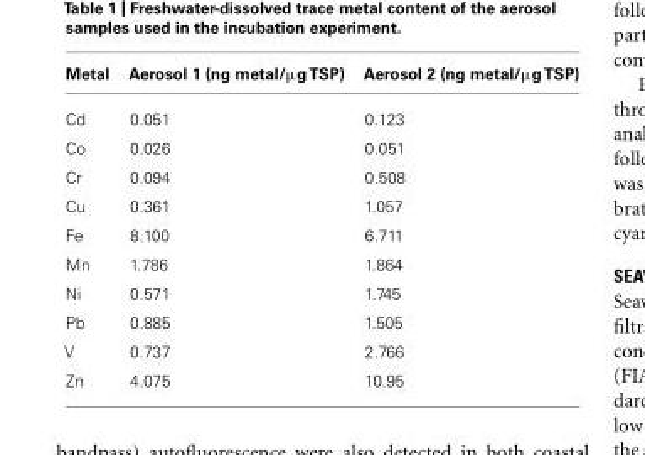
<table><thead><tr><td>Metal</td><td>Aerosol 1 (ng metal/μgTSP)</td><td>Aerosol 2 (ng metal/μgTSP)</td></tr></thead><tbody><tr><td>Cd</td><td>0.051</td><td>0.123</td></tr><tr><td>Co</td><td>0.026</td><td>0.051</td></tr><tr><td>Cr</td><td>0.094</td><td>0.508</td></tr><tr><td>Cu</td><td>0.361</td><td>1.057</td></tr><tr><td>Fe</td><td>8.100</td><td>6.711</td></tr><tr><td>Mn</td><td>1.786</td><td>1.864</td></tr><tr><td>Ni</td><td>0.571</td><td>1.745</td></tr><tr><td>Pb</td><td>0.885</td><td>1.505</td></tr><tr><td>V</td><td>0.737</td><td>2.766</td></tr><tr><td>Zn</td><td>4.075</td><td>10.95</td></tr></tbody></table>